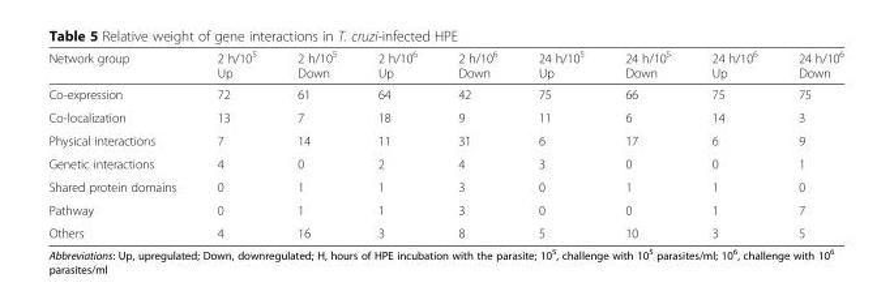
<table><thead><tr><td>Network group</td><td>2 h/10<sup>5</sup> Up</td><td>2 h/10<sup>5</sup> Down</td><td>2 h/10<sup>6</sup> Up</td><td>2 h/10<sup>6</sup> Down</td><td>24 h/10<sup>5</sup> Up</td><td>24 h/10<sup>5</sup> Down</td><td>24 h/10<sup>6</sup> Up</td><td>24 h/10<sup>6</sup> Down</td></tr></thead><tbody><tr><td>Co-expression</td><td>72</td><td>61</td><td>64</td><td>42</td><td>75</td><td>66</td><td>75</td><td>75</td></tr><tr><td>Co-localization</td><td>13</td><td>7</td><td>18</td><td>9</td><td>11</td><td>6</td><td>14</td><td>3</td></tr><tr><td>Physical interactions</td><td>7</td><td>14</td><td>11</td><td>31</td><td>6</td><td>17</td><td>6</td><td>9</td></tr><tr><td>Genetic interactions</td><td>4</td><td>0</td><td>2</td><td>4</td><td>3</td><td>0</td><td>0</td><td>1</td></tr><tr><td>Shared protein domains</td><td>0</td><td>1</td><td>1</td><td>3</td><td>0</td><td>1</td><td>1</td><td>0</td></tr><tr><td>Pathway</td><td>0</td><td>1</td><td>1</td><td>3</td><td>0</td><td>0</td><td>1</td><td>7</td></tr><tr><td>Others</td><td>4</td><td>16</td><td>3</td><td>8</td><td>5</td><td>10</td><td>3</td><td>5</td></tr></tbody></table>